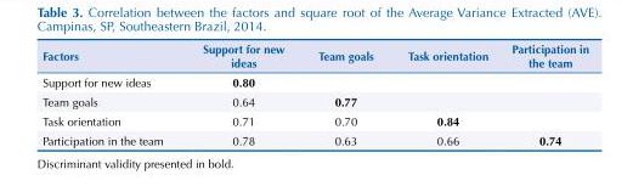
<table><thead><tr><td>Factors</td><td>Support for new ideas</td><td>Team goals</td><td>Task orientation</td><td>Participation in the team</td></tr></thead><tbody><tr><td>Support for new ideas</td><td>0.80</td><td></td><td></td><td></td></tr><tr><td>Team goals</td><td>0.64</td><td>0.77</td><td></td><td></td></tr><tr><td>Task orientation</td><td>0.71</td><td>0.70</td><td>0.84</td><td></td></tr><tr><td>Participation in the team</td><td>0.78</td><td>0.63</td><td>0.66</td><td>0.74</td></tr></tbody></table>